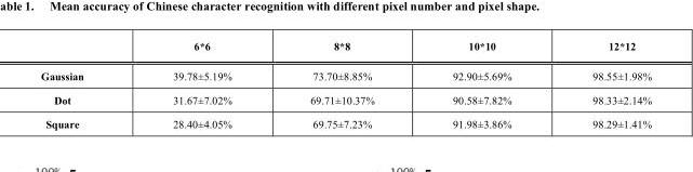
<table><thead><tr><td></td><td>6*6</td><td>8*8</td><td>10*10</td><td>12*12</td></tr></thead><tbody><tr><td>Gaussian</td><td>39.78±5.19%</td><td>73.70±8.85%</td><td>92.90±5.69%</td><td>98.55±1.98%</td></tr><tr><td>Dot</td><td>31.67±7.02%</td><td>69.71±10.37%</td><td>90.58±7.82%</td><td>98.33±2.14%</td></tr><tr><td>Square</td><td>28.40±4.05%</td><td>69.75±7.23%</td><td>91.98±3.86%</td><td>98.29±1.41%</td></tr></tbody></table>